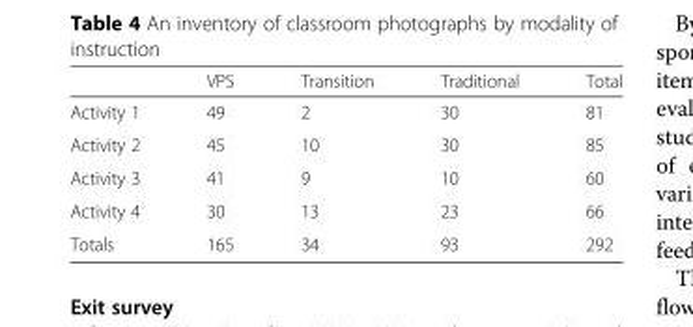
<table><thead><tr><td></td><td>VPS</td><td>Transition</td><td>Traditional</td><td>Total</td></tr></thead><tbody><tr><td>Activity 1</td><td>49</td><td>2</td><td>30</td><td>81</td></tr><tr><td>Activity 2</td><td>45</td><td>10</td><td>30</td><td>85</td></tr><tr><td>Activity 3</td><td>41</td><td>9</td><td>10</td><td>60</td></tr><tr><td>Activity 4</td><td>30</td><td>13</td><td>23</td><td>66</td></tr><tr><td>Totals</td><td>165</td><td>34</td><td>93</td><td>292</td></tr></tbody></table>